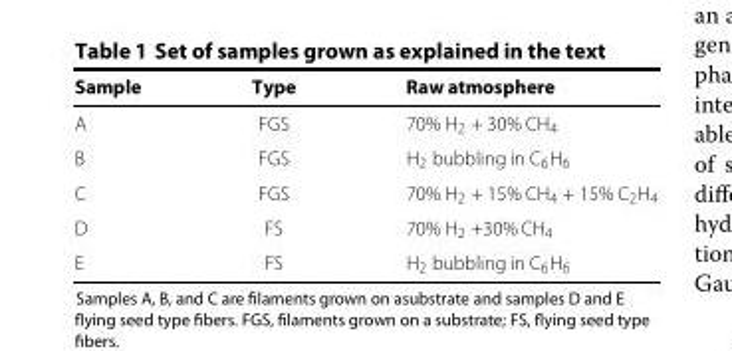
<table><thead><tr><td>Sample</td><td>Type</td><td>Raw atmosphere</td></tr></thead><tbody><tr><td>A</td><td>FGS</td><td>70% H<sub>2</sub> + 30% CH<sub>4</sub></td></tr><tr><td>B</td><td>FGS</td><td>H<sub>2</sub> bubbling in C<sub>6</sub>H<sub>6</sub></td></tr><tr><td>C</td><td>FGS</td><td>70% H<sub>2</sub> + 15% CH<sub>4</sub> + 15% C<sub>2</sub>H<sub>4</sub></td></tr><tr><td>D</td><td>FS</td><td>70% H<sub>2</sub> +30% CH<sub>4</sub></td></tr><tr><td>E</td><td>FS</td><td>H<sub>2</sub> bubbling in C<sub>6</sub>H<sub>6</sub></td></tr></tbody></table>